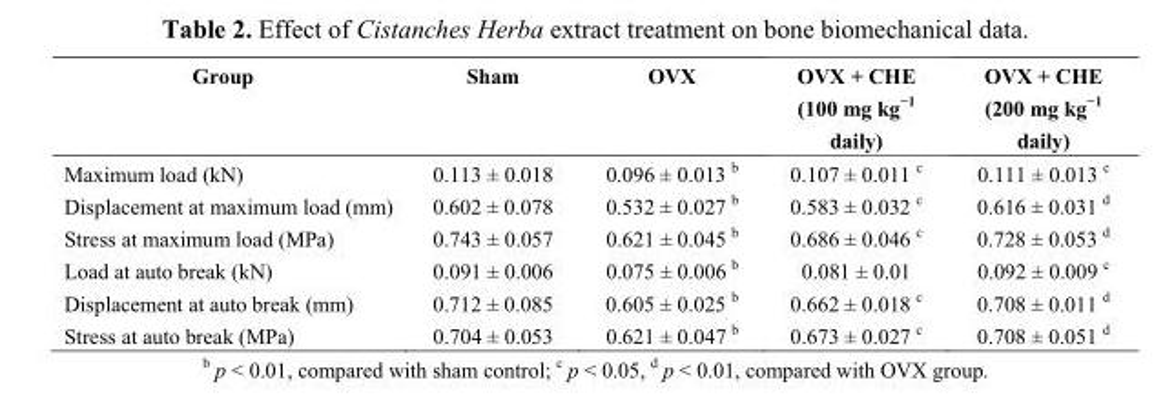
<table><thead><tr><td>Group</td><td>Sham</td><td>OVX</td><td>OVX + CHE (100 mg kg<sup>−1</sup> daily)</td><td>OVX + CHE (200 mg kg<sup>−1</sup> daily)</td></tr></thead><tbody><tr><td>Maximum load (kN)</td><td>0.113 ± 0.018</td><td>0.096 ± 0.013 <sup>b</sup></td><td>0.107 ± 0.011 <sup>c</sup></td><td>0.111 ± 0.013 <sup>c</sup></td></tr><tr><td>Displacement at maximum load (mm)</td><td>0.602 ± 0.078</td><td>0.532 ± 0.027 <sup>b</sup></td><td>0.583 ± 0.032 <sup>c</sup></td><td>0.616 ± 0.031 <sup>d</sup></td></tr><tr><td>Stress at maximum load (MPa)</td><td>0.743 ± 0.057</td><td>0.621 ± 0.045 <sup>b</sup></td><td>0.686 ± 0.046 <sup>c</sup></td><td>0.728 ± 0.053 <sup>d</sup></td></tr><tr><td>Load at auto break (kN)</td><td>0.091 ± 0.006</td><td>0.075 ± 0.006 <sup>b</sup></td><td>0.081 ± 0.01</td><td>0.092 ± 0.009 <sup>c</sup></td></tr><tr><td>Displacement at auto break (mm)</td><td>0.712 ± 0.085</td><td>0.605 ± 0.025 <sup>b</sup></td><td>0.662 ± 0.018 <sup>c</sup></td><td>0.708 ± 0.011 <sup>d</sup></td></tr><tr><td>Stress at auto break (MPa)</td><td>0.704 ± 0.053</td><td>0.621 ± 0.047 <sup>b</sup></td><td>0.673 ± 0.027 <sup>c</sup></td><td>0.708 ± 0.051 <sup>d</sup></td></tr></tbody></table>